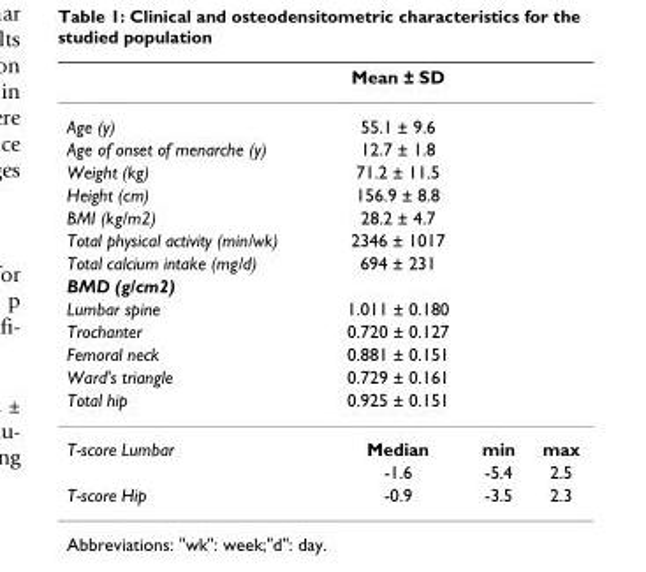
<table><thead><tr><td></td><td>Mean ± SD</td><td></td><td></td></tr></thead><tbody><tr><td>Age (y)</td><td>55.1 ± 9.6</td><td></td><td></td></tr><tr><td>Age of onset of menarche (y)</td><td>12.7 ± 1.8</td><td></td><td></td></tr><tr><td>Weight (kg)</td><td>71.2 ± 11.5</td><td></td><td></td></tr><tr><td>Height (cm)</td><td>156.9 ± 8.8</td><td></td><td></td></tr><tr><td>BMI (kg/m2)</td><td>28.2 ± 4.7</td><td></td><td></td></tr><tr><td>Total physical activity (min/wk)</td><td>2346 ± 1017</td><td></td><td></td></tr><tr><td>Total calcium intake (mg/d)</td><td>694 ± 231</td><td></td><td></td></tr><tr><td colspan="4">BMD (g/cm2)</td></tr><tr><td>Lumbar spine</td><td>1.011 ± 0.180</td><td></td><td></td></tr><tr><td>Trochanter</td><td>0.720 ± 0.127</td><td></td><td></td></tr><tr><td>Femoral neck</td><td>0.881 ± 0.151</td><td></td><td></td></tr><tr><td>Ward&#x27;s triangle</td><td>0.729 ± 0.161</td><td></td><td></td></tr><tr><td>Total hip</td><td>0.925 ± 0.151</td><td></td><td></td></tr><tr><td rowspan="2">T-score Lumbar</td><td>Median</td><td>min</td><td>max</td></tr><tr><td>-1.6</td><td>-5.4</td><td>2.5</td></tr><tr><td>T-score Hip</td><td>-0.9</td><td>-3.5</td><td>2.3</td></tr></tbody></table>